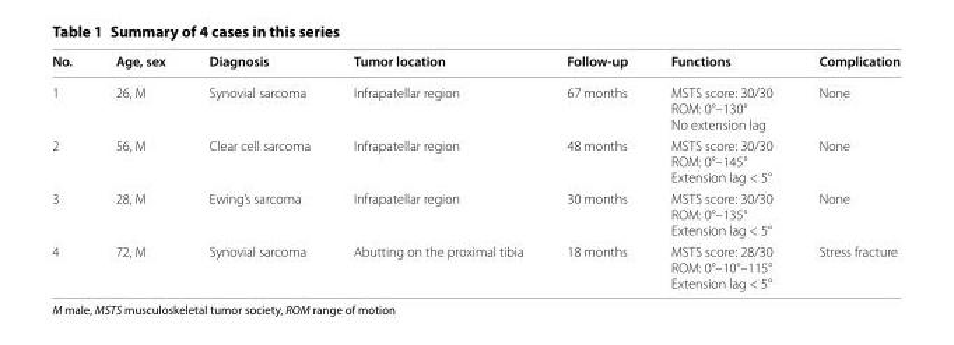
<table><thead><tr><td>No.</td><td>Age, sex</td><td>Diagnosis</td><td>Tumor location</td><td>Follow-up</td><td>Functions</td><td>Complication</td></tr></thead><tbody><tr><td>1</td><td>26, M</td><td>Synovial sarcoma</td><td>Infrapatellar region</td><td>67 months</td><td>MSTS score: 30/30 ROM: 0°–130° No extension lag</td><td>None</td></tr><tr><td>2</td><td>56, M</td><td>Clear cell sarcoma</td><td>Infrapatellar region</td><td>48 months</td><td>MSTS score: 30/30 ROM: 0°–145° Extension lag &lt; 5°</td><td>None</td></tr><tr><td>3</td><td>28, M</td><td>Ewing’s sarcoma</td><td>Infrapatellar region</td><td>30 months</td><td>MSTS score: 30/30 ROM: 0°–135° Extension lag &lt; 5°</td><td>None</td></tr><tr><td>4</td><td>72, M</td><td>Synovial sarcoma</td><td>Abutting on the proximal tibia</td><td>18 months</td><td>MSTS score: 28/30 ROM: 0°–10°–115° Extension lag &lt; 5°</td><td>Stress fracture</td></tr></tbody></table>